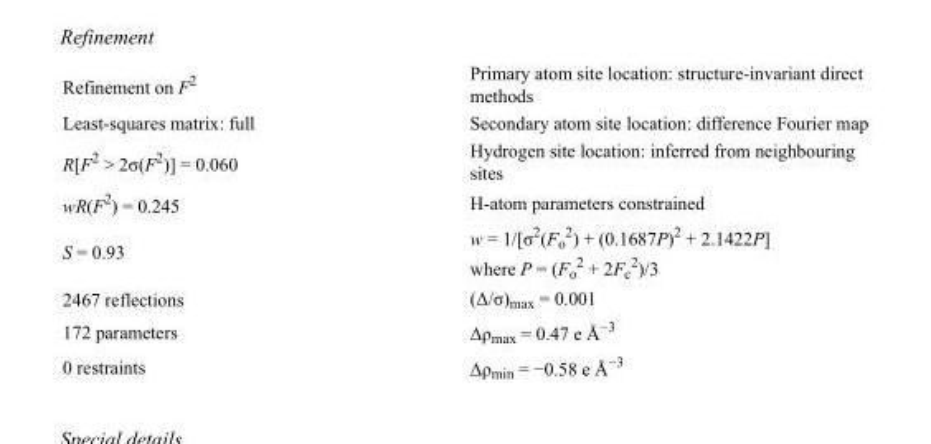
<table><tbody><tr><td>Refinement on F<sup>2</sup></td><td>Primary atom site location: structure-invariant direct methods</td></tr><tr><td>Least-squares matrix: full</td><td>Secondary atom site location: difference Fourier map</td></tr><tr><td>R[F<sup>2</sup> &gt; 2σ(F<sup>2</sup>)] = 0.060</td><td>Hydrogen site location: inferred from neighbouring sites</td></tr><tr><td>wR(F<sup>2</sup>) = 0.245</td><td>H-atom parameters constrained</td></tr><tr><td>S = 0.93</td><td>w = 1/[σ<sup>2</sup>(F<sub>o</sub> <sup>2</sup>) + (0.1687P)<sup>2</sup> + 2.1422P] where P = (F<sub>o</sub> <sup>2</sup> + 2F<sub>c</sub> <sup>2</sup>)/3</td></tr><tr><td>2467 reflections</td><td>(Δ/σ)<sub>max</sub> = 0.001</td></tr><tr><td>172 parameters</td><td>Δρ<sub>max</sub> = 0.47 e Å<sup>−3</sup></td></tr><tr><td>0 restraints</td><td>Δρ<sub>min</sub> = −0.58 e Å<sup>−3</sup></td></tr></tbody></table>